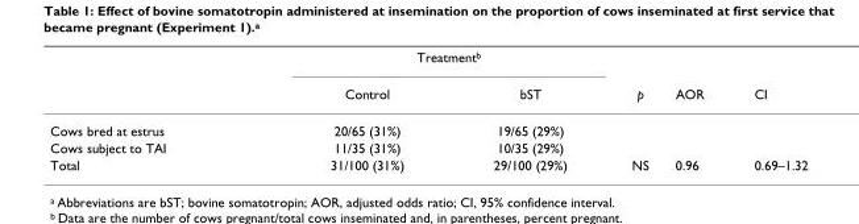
<table><thead><tr><td rowspan="2"></td><td colspan="2">Treatment<sup>b</sup></td><td rowspan="2">p</td><td rowspan="2">AOR</td><td rowspan="2">CI</td></tr><tr><td>Control</td><td>bST</td></tr></thead><tbody><tr><td>Cows bred at estrus</td><td>20/65 (31%)</td><td>19/65 (29%)</td><td></td><td></td><td></td></tr><tr><td>Cows subject to TAI</td><td>11/35 (31%)</td><td>10/35 (29%)</td><td></td><td></td><td></td></tr><tr><td>Total</td><td>31/100 (31%)</td><td>29/100 (29%)</td><td>NS</td><td>0.96</td><td>0.69–1.32</td></tr></tbody></table>